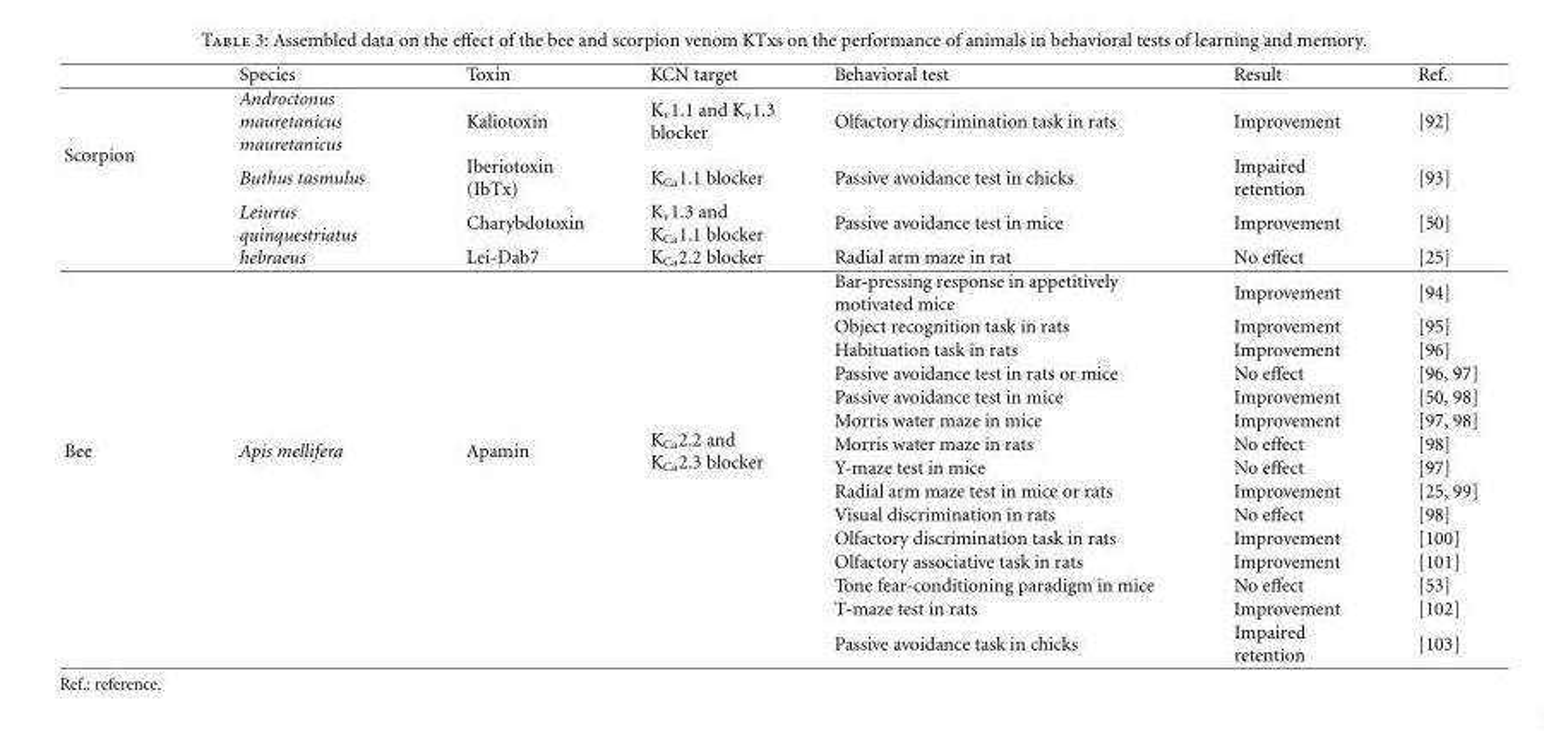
<table><thead><tr><td></td><td>Species</td><td>Toxin</td><td>KCN target</td><td>Behavioral test</td><td>Result</td><td>Ref.</td></tr></thead><tbody><tr><td rowspan="4">Scorpion</td><td>Androctonus mauretanicus mauretanicus</td><td>Kaliotoxin</td><td>K<sub>v</sub>1.1 and K<sub>v</sub>1.3 blocker</td><td>Olfactory discrimination task in rats</td><td>Improvement</td><td>[92]</td></tr><tr><td>Buthus tasmulus</td><td>Iberiotoxin (IbTx)</td><td>K<sub>Ca</sub>1.1 blocker</td><td>Passive avoidance test in chicks</td><td>Impaired retention</td><td>[93]</td></tr><tr><td rowspan="2">Leiurus quinquestriatus hebraeus</td><td>Charybdotoxin</td><td>K<sub>v</sub>1.3 and K<sub>Ca</sub>1.1 blocker</td><td>Passive avoidance test in mice</td><td>Improvement</td><td>[50]</td></tr><tr><td>Lei-Dab7</td><td>K<sub>Ca</sub>2.2 blocker</td><td>Radial arm maze in rat</td><td>No effect</td><td>[25]</td></tr><tr><td rowspan="15">Bee</td><td rowspan="15">Apis mellifera</td><td rowspan="15">Apamin</td><td rowspan="15">K<sub>Ca</sub>2.2 and K<sub>Ca</sub>2.3 blocker</td><td>Bar-pressing response in appetitively motivated mice</td><td>Improvement</td><td>[94]</td></tr><tr><td>Object recognition task in rats</td><td>Improvement</td><td>[95]</td></tr><tr><td>Habituation task in rats</td><td>Improvement</td><td>[96]</td></tr><tr><td>Passive avoidance test in rats or mice</td><td>No effect</td><td>[96, 97]</td></tr><tr><td>Passive avoidance test in mice</td><td>Improvement</td><td>[50, 98]</td></tr><tr><td>Morris water maze in mice</td><td>Improvement</td><td>[97, 98]</td></tr><tr><td>Morris water maze in rats</td><td>No effect</td><td>[98]</td></tr><tr><td>Y-maze test in mice</td><td>No effect</td><td>[97]</td></tr><tr><td>Radial arm maze test in mice or rats</td><td>Improvement</td><td>[25, 99]</td></tr><tr><td>Visual discrimination in rats</td><td>No effect</td><td>[98]</td></tr><tr><td>Olfactory discrimination task in rats</td><td>Improvement</td><td>[100]</td></tr><tr><td>Olfactory associative task in rats</td><td>Improvement</td><td>[101]</td></tr><tr><td>Tone fear-conditioning paradigm in mice</td><td>No effect</td><td>[53]</td></tr><tr><td>T-maze test in rats</td><td>Improvement</td><td>[102]</td></tr><tr><td>Passive avoidance task in chicks</td><td>Impaired retention</td><td>[103]</td></tr></tbody></table>